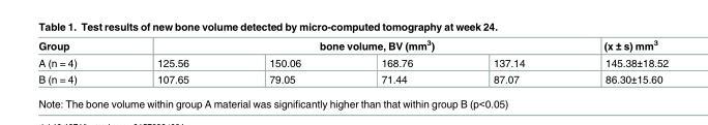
<table><thead><tr><td rowspan="2">Group A (n = 4)</td><td colspan="4">bone volume, BV (mm<sup>3</sup>)</td><td rowspan="2">(x ± s) mm<sup>3</sup> 145.38±18.52</td></tr><tr><td>125.56</td><td>150.06</td><td>168.76</td><td>137.14</td></tr></thead><tbody><tr><td>B (n = 4)</td><td>107.65</td><td>79.05</td><td>71.44</td><td>87.07</td><td>86.30±15.60</td></tr></tbody></table>